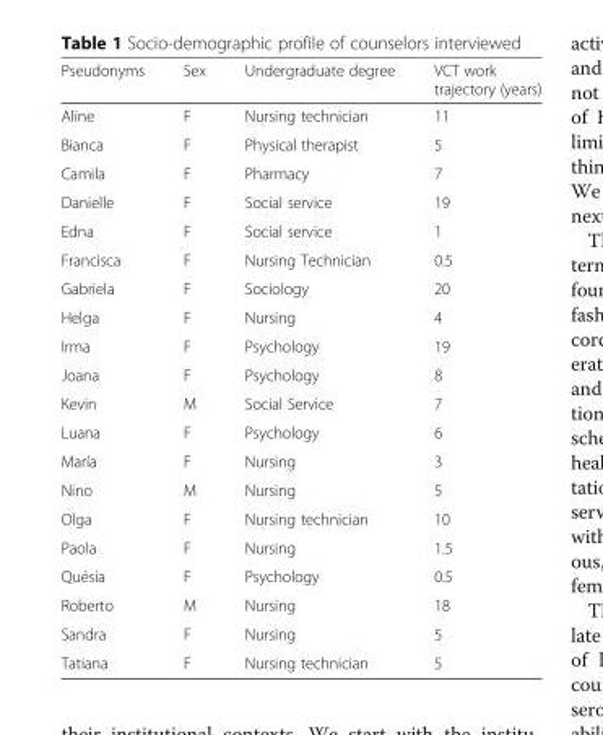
<table><thead><tr><td>Pseudonyms</td><td>Sex</td><td>Undergraduate degree</td><td>VCT work trajectory (years)</td></tr></thead><tbody><tr><td>Aline</td><td>F</td><td>Nursing technician</td><td>11</td></tr><tr><td>Bianca</td><td>F</td><td>Physical therapist</td><td>5</td></tr><tr><td>Camila</td><td>F</td><td>Pharmacy</td><td>7</td></tr><tr><td>Danielle</td><td>F</td><td>Social service</td><td>19</td></tr><tr><td>Edna</td><td>F</td><td>Social service</td><td>1</td></tr><tr><td>Francisca</td><td>F</td><td>Nursing Technician</td><td>0.5</td></tr><tr><td>Gabriela</td><td>F</td><td>Sociology</td><td>20</td></tr><tr><td>Helga</td><td>F</td><td>Nursing</td><td>4</td></tr><tr><td>Irma</td><td>F</td><td>Psychology</td><td>19</td></tr><tr><td>Joana</td><td>F</td><td>Psychology</td><td>8</td></tr><tr><td>Kevin</td><td>M</td><td>Social Service</td><td>7</td></tr><tr><td>Luana</td><td>F</td><td>Psychology</td><td>6</td></tr><tr><td>María</td><td>F</td><td>Nursing</td><td>3</td></tr><tr><td>Nino</td><td>M</td><td>Nursing</td><td>5</td></tr><tr><td>Olga</td><td>F</td><td>Nursing technician</td><td>10</td></tr><tr><td>Paola</td><td>F</td><td>Nursing</td><td>1.5</td></tr><tr><td>Quésia</td><td>F</td><td>Psychology</td><td>0.5</td></tr><tr><td>Roberto</td><td>M</td><td>Nursing</td><td>18</td></tr><tr><td>Sandra</td><td>F</td><td>Nursing</td><td>5</td></tr><tr><td>Tatiana</td><td>F</td><td>Nursing technician</td><td>5</td></tr></tbody></table>